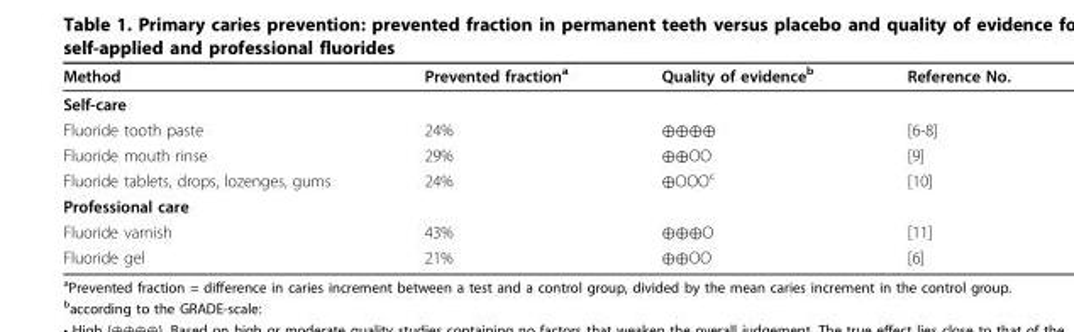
<table><thead><tr><td>Method</td><td>Prevented fraction<sup>a</sup></td><td>Quality of evidence<sup>b</sup></td><td>Reference No.</td></tr></thead><tbody><tr><td colspan="4">Self-care</td></tr><tr><td>Fluoride tooth paste</td><td>24%</td><td>⊕⊕⊕⊕</td><td>[6-8]</td></tr><tr><td>Fluoride mouth rinse</td><td>29%</td><td>⊕⊕OO</td><td>[9]</td></tr><tr><td>Fluoride tablets, drops, lozenges, gums</td><td>24%</td><td>⊕OOO<sup>c</sup></td><td>[10]</td></tr><tr><td colspan="4">Professional care</td></tr><tr><td>Fluoride varnish</td><td>43%</td><td>⊕⊕⊕O</td><td>[11]</td></tr><tr><td>Fluoride gel</td><td>21%</td><td>⊕⊕OO</td><td>[6]</td></tr></tbody></table>